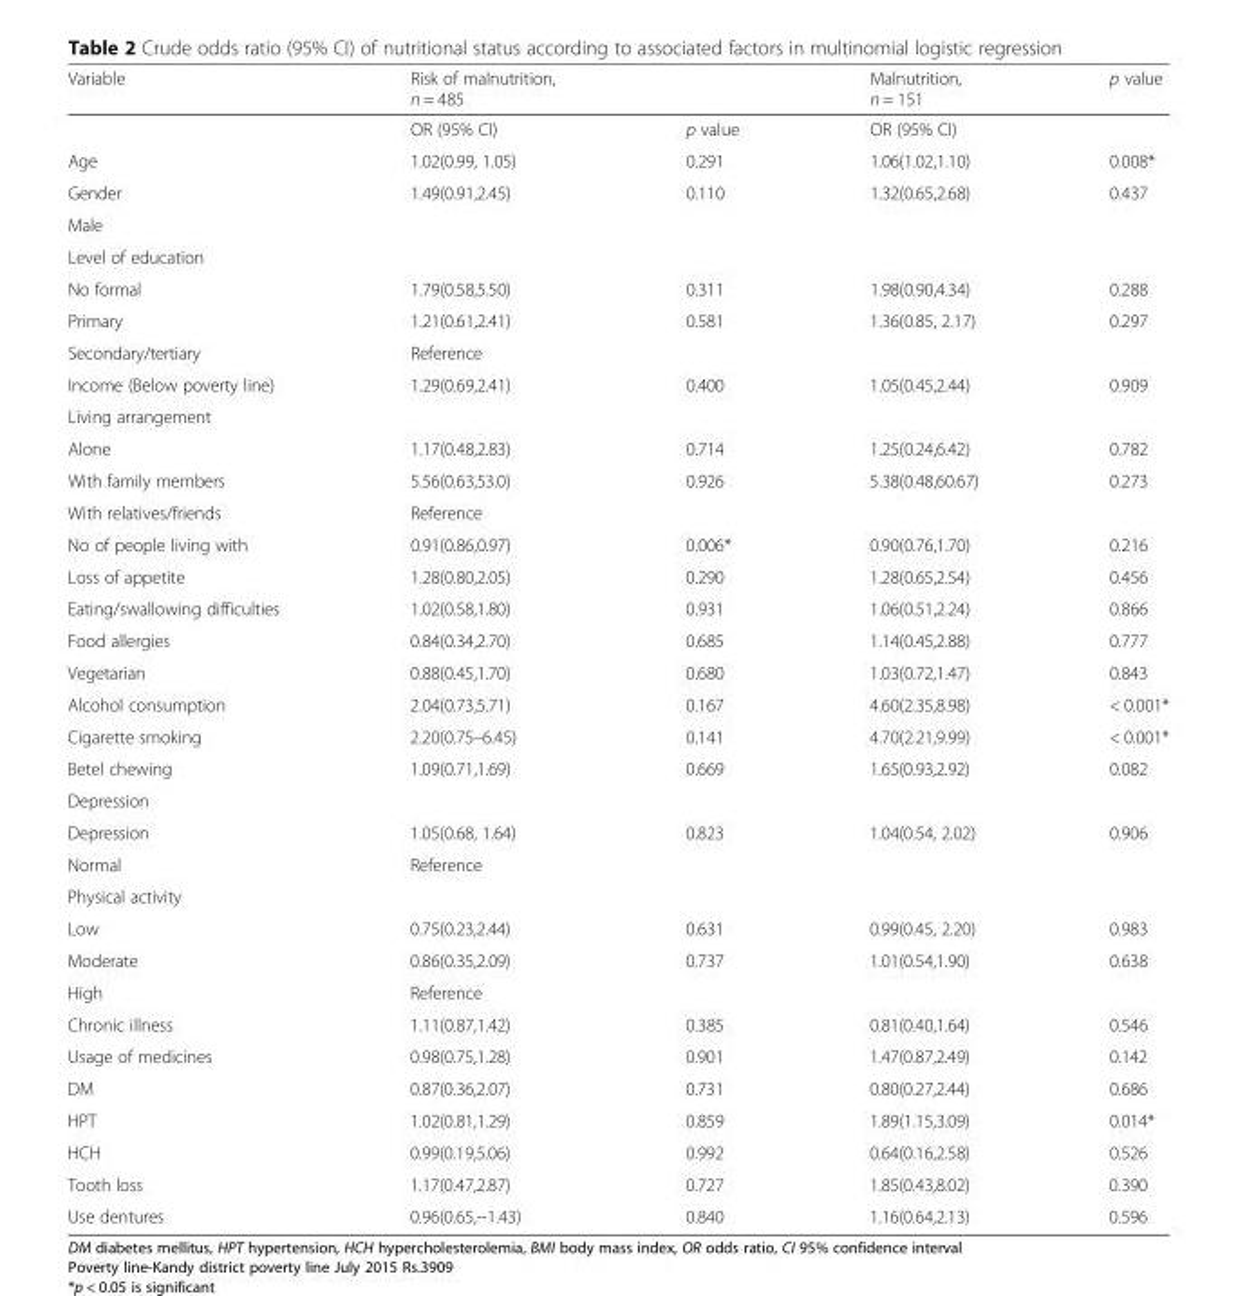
<table><thead><tr><td>Variable</td><td>Risk of malnutrition, n = 485</td><td></td><td>Malnutrition, n = 151</td><td>p value</td></tr></thead><tbody><tr><td></td><td>OR (95% CI)</td><td>p value</td><td>OR (95% CI)</td><td></td></tr><tr><td>Age</td><td>1.02(0.99, 1.05)</td><td>0.291</td><td>1.06(1.02,1.10)</td><td>0.008*</td></tr><tr><td>Gender</td><td>1.49(0.91,2.45)</td><td>0.110</td><td>1.32(0.65,2.68)</td><td>0.437</td></tr><tr><td colspan="5">Male</td></tr><tr><td colspan="5">Level of education</td></tr><tr><td>No formal</td><td>1.79(0.58,5.50)</td><td>0.311</td><td>1.98(0.90,4.34)</td><td>0.288</td></tr><tr><td>Primary</td><td>1.21(0.61,2.41)</td><td>0.581</td><td>1.36(0.85, 2.17)</td><td>0.297</td></tr><tr><td>Secondary/tertiary</td><td>Reference</td><td></td><td></td><td></td></tr><tr><td>Income (Below poverty line)</td><td>1.29(0.69,2.41)</td><td>0.400</td><td>1.05(0.45,2.44)</td><td>0.909</td></tr><tr><td colspan="5">Living arrangement</td></tr><tr><td>Alone</td><td>1.17(0.48,2.83)</td><td>0.714</td><td>1.25(0.24,6.42)</td><td>0.782</td></tr><tr><td>With family members</td><td>5.56(0.63,53.0)</td><td>0.926</td><td>5.38(0.48,60.67)</td><td>0.273</td></tr><tr><td>With relatives/friends</td><td>Reference</td><td></td><td></td><td></td></tr><tr><td>No of people living with</td><td>0.91(0.86,0.97)</td><td>0.006*</td><td>0.90(0.76,1.70)</td><td>0.216</td></tr><tr><td>Loss of appetite</td><td>1.28(0.80,2.05)</td><td>0.290</td><td>1.28(0.65,2.54)</td><td>0.456</td></tr><tr><td>Eating/swallowing difficulties</td><td>1.02(0.58,1.80)</td><td>0.931</td><td>1.06(0.51,2.24)</td><td>0.866</td></tr><tr><td>Food allergies</td><td>0.84(0.34,2.70)</td><td>0.685</td><td>1.14(0.45,2.88)</td><td>0.777</td></tr><tr><td>Vegetarian</td><td>0.88(0.45,1.70)</td><td>0.680</td><td>1.03(0.72,1.47)</td><td>0.843</td></tr><tr><td>Alcohol consumption</td><td>2.04(0.73,5.71)</td><td>0.167</td><td>4.60(2.35,8.98)</td><td>&lt; 0.001*</td></tr><tr><td>Cigarette smoking</td><td>2.20(0.75–6.45)</td><td>0.141</td><td>4.70(2.21,9.99)</td><td>&lt; 0.001*</td></tr><tr><td>Betel chewing</td><td>1.09(0.71,1.69)</td><td>0.669</td><td>1.65(0.93,2.92)</td><td>0.082</td></tr><tr><td colspan="5">Depression</td></tr><tr><td>Depression</td><td>1.05(0.68, 1.64)</td><td>0.823</td><td>1.04(0.54, 2.02)</td><td>0.906</td></tr><tr><td>Normal</td><td>Reference</td><td></td><td></td><td></td></tr><tr><td colspan="5">Physical activity</td></tr><tr><td>Low</td><td>0.75(0.23,2.44)</td><td>0.631</td><td>0.99(0.45, 2.20)</td><td>0.983</td></tr><tr><td>Moderate</td><td>0.86(0.35,2.09)</td><td>0.737</td><td>1.01(0.54,1.90)</td><td>0.638</td></tr><tr><td>High</td><td>Reference</td><td></td><td></td><td></td></tr><tr><td>Chronic illness</td><td>1.11(0.87,1.42)</td><td>0.385</td><td>0.81(0.40,1.64)</td><td>0.546</td></tr><tr><td>Usage of medicines</td><td>0.98(0.75,1.28)</td><td>0.901</td><td>1.47(0.87,2.49)</td><td>0.142</td></tr><tr><td>DM</td><td>0.87(0.36,2.07)</td><td>0.731</td><td>0.80(0.27,2.44)</td><td>0.686</td></tr><tr><td>HPT</td><td>1.02(0.81,1.29)</td><td>0.859</td><td>1.89(1.15,3.09)</td><td>0.014*</td></tr><tr><td>HCH</td><td>0.99(0.19,5.06)</td><td>0.992</td><td>0.64(0.16,2.58)</td><td>0.526</td></tr><tr><td>Tooth loss</td><td>1.17(0.47,2.87)</td><td>0.727</td><td>1.85(0.43,8.02)</td><td>0.390</td></tr><tr><td>Use dentures</td><td>0.96(0.65,--1.43)</td><td>0.840</td><td>1.16(0.64,2.13)</td><td>0.596</td></tr></tbody></table>